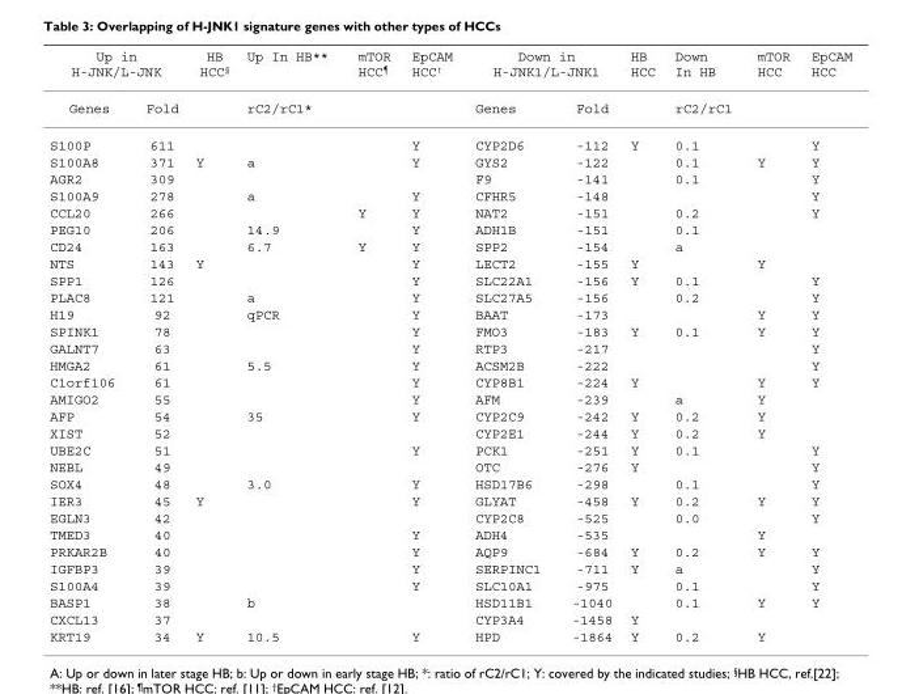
<table><thead><tr><td colspan="2">Up in H-JNK/L-JNK</td><td rowspan="2">HB HCC§</td><td rowspan="2">Up In HB** rC2/rC1*</td><td rowspan="2">mTOR HCC¶</td><td rowspan="2">EpCAM HCC†</td><td colspan="2">Down in H-JNK1/L-JNK1</td><td rowspan="2">HB HCC</td><td rowspan="2">Down In HB rC2/rC1</td><td rowspan="2">mTOR HCC</td><td rowspan="2">EpCAM HCC</td></tr><tr><td>Genes</td><td>Fold</td><td>Genes</td><td>Fold</td></tr></thead><tbody><tr><td>S100P</td><td>611</td><td></td><td></td><td></td><td>Y</td><td>CYP2D6</td><td>-112</td><td>Y</td><td>0.1</td><td></td><td>Y</td></tr><tr><td>S100A8</td><td>371</td><td>Y</td><td>a</td><td></td><td>Y</td><td>GYS2</td><td>-122</td><td></td><td>0.1</td><td>Y</td><td>Y</td></tr><tr><td>AGR2</td><td>309</td><td></td><td></td><td></td><td></td><td>F9</td><td>-141</td><td></td><td>0.1</td><td></td><td>Y</td></tr><tr><td>S100A9</td><td>278</td><td></td><td>a</td><td></td><td>Y</td><td>CFHR5</td><td>-148</td><td></td><td></td><td></td><td>Y</td></tr><tr><td>CCL20</td><td>266</td><td></td><td></td><td>Y</td><td>Y</td><td>NAT2</td><td>-151</td><td></td><td>0.2</td><td></td><td>Y</td></tr><tr><td>PEG10</td><td>206</td><td></td><td>14.9</td><td></td><td>Y</td><td>ADH1B</td><td>-151</td><td></td><td>0.1</td><td></td><td></td></tr><tr><td>CD24</td><td>163</td><td></td><td>6.7</td><td>Y</td><td>Y</td><td>SPP2</td><td>-154</td><td></td><td>a</td><td></td><td></td></tr><tr><td>NTS</td><td>143</td><td>Y</td><td></td><td></td><td>Y</td><td>LECT2</td><td>-155</td><td>Y</td><td></td><td>Y</td><td></td></tr><tr><td>SPP1</td><td>126</td><td></td><td></td><td></td><td>Y</td><td>SLC22A1</td><td>-156</td><td>Y</td><td>0.1</td><td></td><td>Y</td></tr><tr><td>PLAC8</td><td>121</td><td></td><td>a</td><td></td><td>Y</td><td>SLC27A5</td><td>-156</td><td></td><td>0.2</td><td></td><td>Y</td></tr><tr><td>H19</td><td>92</td><td></td><td>qPCR</td><td></td><td>Y</td><td>BAAT</td><td>-173</td><td></td><td></td><td>Y</td><td>Y</td></tr><tr><td>SPINK1</td><td>78</td><td></td><td></td><td></td><td>Y</td><td>FMO3</td><td>-183</td><td>Y</td><td>0.1</td><td>Y</td><td>Y</td></tr><tr><td>GALNT7</td><td>63</td><td></td><td></td><td></td><td>Y</td><td>RTP3</td><td>-217</td><td></td><td></td><td></td><td>Y</td></tr><tr><td>HMGA2</td><td>61</td><td></td><td>5.5</td><td></td><td>Y</td><td>ACSM2B</td><td>-222</td><td></td><td></td><td></td><td>Y</td></tr><tr><td>C1orf106</td><td>61</td><td></td><td></td><td></td><td>Y</td><td>CYP8B1</td><td>-224</td><td>Y</td><td></td><td>Y</td><td>Y</td></tr><tr><td>AMIGO2</td><td>55</td><td></td><td></td><td></td><td>Y</td><td>AFM</td><td>-239</td><td></td><td>a</td><td>Y</td><td></td></tr><tr><td>AFP</td><td>54</td><td></td><td>35</td><td></td><td>Y</td><td>CYP2C9</td><td>-242</td><td>Y</td><td>0.2</td><td>Y</td><td></td></tr><tr><td>XIST</td><td>52</td><td></td><td></td><td></td><td></td><td>CYP2E1</td><td>-244</td><td>Y</td><td>0.2</td><td>Y</td><td></td></tr><tr><td>UBE2C</td><td>51</td><td></td><td></td><td></td><td>Y</td><td>PCK1</td><td>-251</td><td>Y</td><td>0.1</td><td></td><td>Y</td></tr><tr><td>NEBL</td><td>49</td><td></td><td></td><td></td><td></td><td>OTC</td><td>-276</td><td>Y</td><td></td><td></td><td>Y</td></tr><tr><td>SOX4</td><td>48</td><td></td><td>3.0</td><td></td><td>Y</td><td>HSD17B6</td><td>-298</td><td></td><td>0.1</td><td></td><td>Y</td></tr><tr><td>IER3</td><td>45</td><td>Y</td><td></td><td></td><td>Y</td><td>GLYAT</td><td>-458</td><td>Y</td><td>0.2</td><td>Y</td><td>Y</td></tr><tr><td>EGLN3</td><td>42</td><td></td><td></td><td></td><td></td><td>CYP2C8</td><td>-525</td><td></td><td>0.0</td><td></td><td>Y</td></tr><tr><td>TMED3</td><td>40</td><td></td><td></td><td></td><td>Y</td><td>ADH4</td><td>-535</td><td></td><td></td><td>Y</td><td></td></tr><tr><td>PRKAR2B</td><td>40</td><td></td><td></td><td></td><td>Y</td><td>AQP9</td><td>-684</td><td>Y</td><td>0.2</td><td>Y</td><td>Y</td></tr><tr><td>IGFBP3</td><td>39</td><td></td><td></td><td></td><td>Y</td><td>SERPINC1</td><td>-711</td><td>Y</td><td>a</td><td></td><td>Y</td></tr><tr><td>S100A4</td><td>39</td><td></td><td></td><td></td><td>Y</td><td>SLC10A1</td><td>-975</td><td></td><td>0.1</td><td></td><td>Y</td></tr><tr><td>BASP1</td><td>38</td><td></td><td>b</td><td></td><td></td><td>HSD11B1</td><td>-1040</td><td></td><td>0.1</td><td>Y</td><td>Y</td></tr><tr><td>CXCL13</td><td>37</td><td></td><td></td><td></td><td></td><td>CYP3A4</td><td>-1458</td><td>Y</td><td></td><td></td><td></td></tr><tr><td>KRT19</td><td>34</td><td>Y</td><td>10.5</td><td></td><td>Y</td><td>HPD</td><td>-1864</td><td>Y</td><td>0.2</td><td>Y</td><td></td></tr></tbody></table>